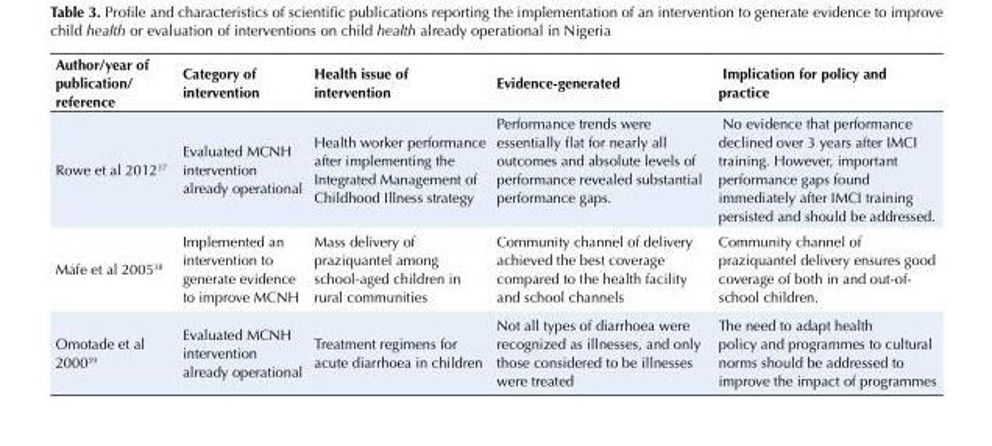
<table><tbody><tr><td>Author/year of publication/ reference</td><td>Category of intervention</td><td>Health issue of intervention</td><td>Evidence-generated</td><td>Implication for policy and practice</td></tr><tr><td>Rowe et al 2012<sup>37</sup></td><td>Evaluated MCNH intervention already operational</td><td>Health worker performance after implementing the Integrated Management of Childhood Illness strategy</td><td>Performance trends were essentially flat for nearly all outcomes and absolute levels of performance revealed substantial performance gaps.</td><td>No evidence that performance declined over 3 years after IMCI training. However, important performance gaps found immediately after IMCI training persisted and should be addressed.</td></tr><tr><td>Mafe et al 2005<sup>38</sup></td><td>Implemented an intervention to generate evidence to improve MCNH</td><td>Mass delivery of praziquantel among school-aged children in rural communities</td><td>Community channel of delivery achieved the best coverage compared to the health facility and school channels</td><td>Community channel of praziquantel delivery ensures good coverage of both in and out-of- school children.</td></tr><tr><td>Omotade et al 2000<sup>39</sup></td><td>Evaluated MCNH intervention already operational</td><td>Treatment regimens for acute diarrhoea in children</td><td>Not all types of diarrhoea were recognized as illnesses, and only those considered to be illnesses were treated</td><td>The need to adapt health policy and programmes to cultural norms should be addressed to improve the impact of programmes</td></tr></tbody></table>